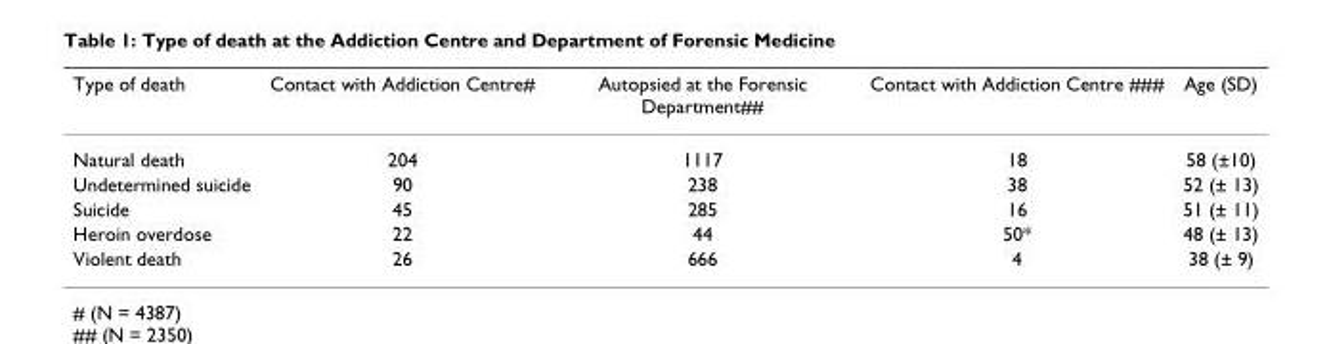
<table><thead><tr><td>Type of death</td><td>Contact with Addiction Centre#</td><td>Autopsied at the Forensic Department##</td><td>Contact with Addiction Centre ###</td><td>Age (SD)</td></tr></thead><tbody><tr><td>Natural death</td><td>204</td><td>1117</td><td>18</td><td>58 (±10)</td></tr><tr><td>Undetermined suicide</td><td>90</td><td>238</td><td>38</td><td>52 (± 13)</td></tr><tr><td>Suicide</td><td>45</td><td>285</td><td>16</td><td>51 (± 11)</td></tr><tr><td>Heroin overdose</td><td>22</td><td>44</td><td>50*</td><td>48 (± 13)</td></tr><tr><td>Violent death</td><td>26</td><td>666</td><td>4</td><td>38 (± 9)</td></tr></tbody></table>